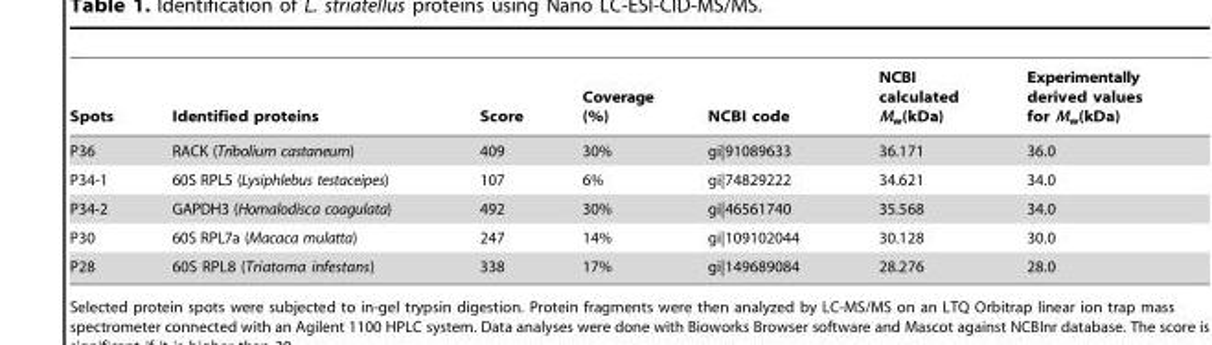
<table><thead><tr><td>Spots</td><td>Identified proteins</td><td>Score</td><td>Coverage (%)</td><td>NCBI code</td><td>NCBI calculated M<sub>w</sub>(kDa)</td><td>Experimentally derived values for M<sub>w</sub>(kDa)</td></tr></thead><tbody><tr><td>P36</td><td>RACK (Tribolium castaneum)</td><td>409</td><td>30%</td><td>gi|91089633</td><td>36.171</td><td>36.0</td></tr><tr><td>P34-1</td><td>60S RPL5 (Lysiphlebus testaceipes)</td><td>107</td><td>6%</td><td>gi|74829222</td><td>34.621</td><td>34.0</td></tr><tr><td>P34-2</td><td>GAPDH3 (Homalodisca coagulata)</td><td>492</td><td>30%</td><td>gi|46561740</td><td>35.568</td><td>34.0</td></tr><tr><td>P30</td><td>60S RPL7a (Macaca mulatta)</td><td>247</td><td>14%</td><td>gi|109102044</td><td>30.128</td><td>30.0</td></tr><tr><td>P28</td><td>60S RPL8 (Triatoma infestans)</td><td>338</td><td>17%</td><td>gi|149689084</td><td>28.276</td><td>28.0</td></tr></tbody></table>